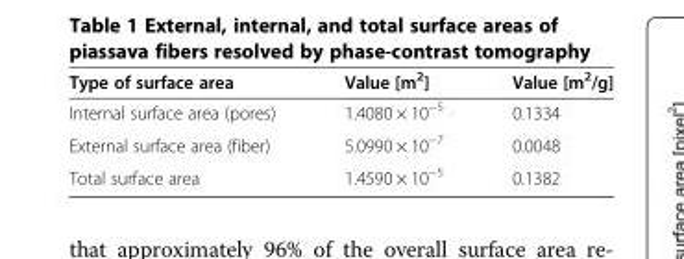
<table><thead><tr><td>Type of surface area</td><td>Value [m<sup>2</sup>]</td><td>Value [m<sup>2</sup>/g]</td></tr></thead><tbody><tr><td>Internal surface area (pores)</td><td>1.4080 × 10<sup>−5</sup></td><td>0.1334</td></tr><tr><td>External surface area (fiber)</td><td>5.0990 × 10<sup>−7</sup></td><td>0.0048</td></tr><tr><td>Total surface area</td><td>1.4590 × 10<sup>−5</sup></td><td>0.1382</td></tr></tbody></table>